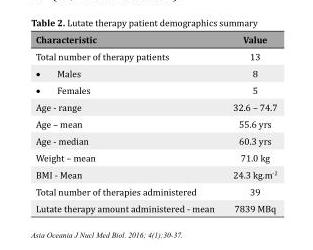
<table><thead><tr><td>Characteristic</td><td>Value</td></tr></thead><tbody><tr><td>Total number of therapy patients</td><td>13</td></tr><tr><td>• Males</td><td>8</td></tr><tr><td>• Females</td><td>5</td></tr><tr><td>Age - range</td><td>32.6 – 74.7</td></tr><tr><td>Age – mean</td><td>55.6 yrs</td></tr><tr><td>Age - median</td><td>60.3 yrs</td></tr><tr><td>Weight – mean</td><td>71.0 kg</td></tr><tr><td>BMI - Mean</td><td>24.3 kg.m<sup>-2</sup></td></tr><tr><td>Total number of therapies administered</td><td>39</td></tr><tr><td>Lutate therapy amount administered - mean</td><td>7839 MBq</td></tr></tbody></table>